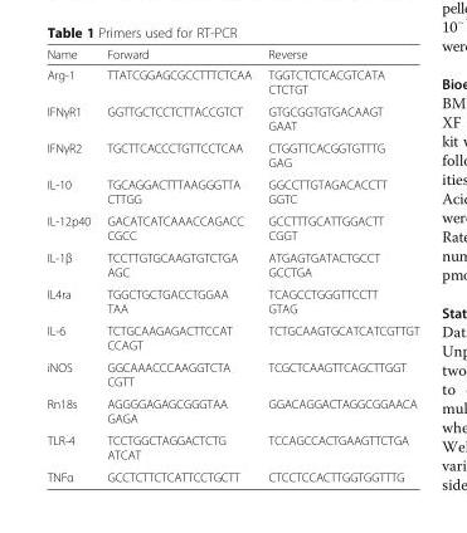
<table><thead><tr><td>Name</td><td>Forward</td><td>Reverse</td></tr></thead><tbody><tr><td>Arg-1</td><td>TTATCGGAGCGCCTTTCTCAA</td><td>TGGTCTCTCACGTCATA CTCTGT</td></tr><tr><td>IFNγR1</td><td>GGTTGCTCCTCTTACCGTCT</td><td>GTGCGGTGTGACAAGT GAAT</td></tr><tr><td>IFNγR2</td><td>TGCTTCACCCTGTTCCTCAA</td><td>CTGGTTCACGGTGTTTG GAG</td></tr><tr><td>IL-10</td><td>TGCAGGACTTTAAGGGTTA CTTGG</td><td>GGCCTTGTAGACACCTT GGTC</td></tr><tr><td>IL-12p40</td><td>GACATCATCAAACCAGACC CGCC</td><td>GCCTTTGCATTGGACTT CGGT</td></tr><tr><td>IL-1β</td><td>TCCTTGTGCAAGTGTCTGA AGC</td><td>ATGAGTGATACTGCCT GCCTGA</td></tr><tr><td>IL4ra</td><td>TGGCTGCTGACCTGGAA TAA</td><td>TCAGCCTGGGTTCCTT GTAG</td></tr><tr><td>IL-6</td><td>TCTGCAAGAGACTTCCAT CCAGT</td><td>TCTGCAAGTGCATCATCGTTGT</td></tr><tr><td>iNOS</td><td>GGCAAACCCAAGGTCTA CGTT</td><td>TCGCTCAAGTTCAGCTTGGT</td></tr><tr><td>Rn18s</td><td>AGGGGAGAGCGGGTAA GAGA</td><td>GGACAGGACTAGGCGGAACA</td></tr><tr><td>TLR-4</td><td>TCCTGGCTAGGACTCTG ATCAT</td><td>TCCAGCCACTGAAGTTCTGA</td></tr><tr><td>TNFα</td><td>GCCTCTTCTCATTCCTGCTT</td><td>CTCCTCCACTTGGTGGTTTG</td></tr></tbody></table>